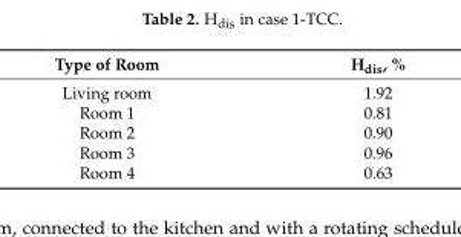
<table><thead><tr><td>Type of Room</td><td>H<sub>dis</sub>, %</td></tr></thead><tbody><tr><td>Living room</td><td>1.92</td></tr><tr><td>Room 1</td><td>0.81</td></tr><tr><td>Room 2</td><td>0.90</td></tr><tr><td>Room 3</td><td>0.96</td></tr><tr><td>Room 4</td><td>0.63</td></tr></tbody></table>